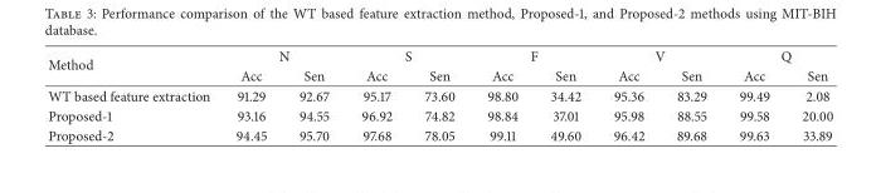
<table><thead><tr><td rowspan="2">Method</td><td colspan="2">N</td><td colspan="2">S</td><td colspan="2">F</td><td colspan="2">V</td><td colspan="2">Q</td></tr><tr><td>Acc</td><td>Sen</td><td>Acc</td><td>Sen</td><td>Acc</td><td>Sen</td><td>Acc</td><td>Sen</td><td>Acc</td><td>Sen</td></tr></thead><tbody><tr><td>WT based feature extraction</td><td>91.29</td><td>92.67</td><td>95.17</td><td>73.60</td><td>98.80</td><td>34.42</td><td>95.36</td><td>83.29</td><td>99.49</td><td>2.08</td></tr><tr><td>Proposed-1</td><td>93.16</td><td>94.55</td><td>96.92</td><td>74.82</td><td>98.84</td><td>37.01</td><td>95.98</td><td>88.55</td><td>99.58</td><td>20.00</td></tr><tr><td>Proposed-2</td><td>94.45</td><td>95.70</td><td>97.68</td><td>78.05</td><td>99.11</td><td>49.60</td><td>96.42</td><td>89.68</td><td>99.63</td><td>33.89</td></tr></tbody></table>